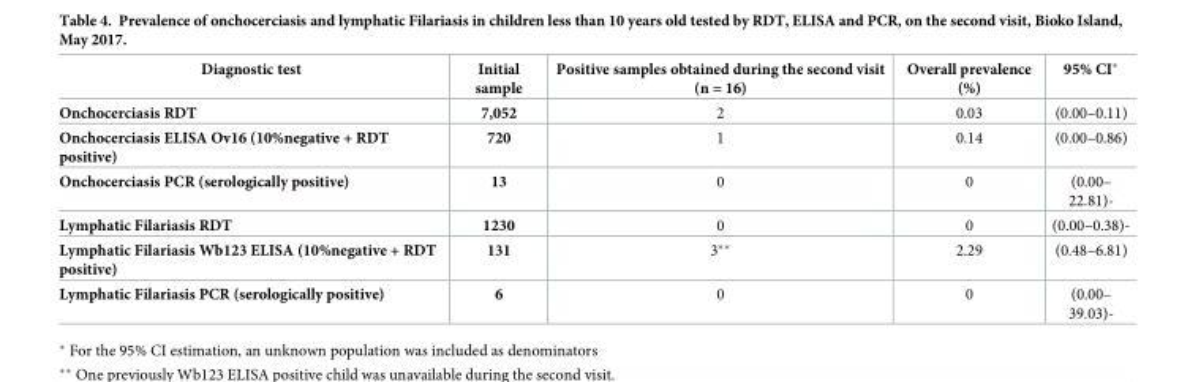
<table><thead><tr><td>Diagnostic test</td><td>Initial sample</td><td>Positive samples obtained during the second visit (n = 16)</td><td>Overall prevalence (%)</td><td>95% CI*</td></tr></thead><tbody><tr><td>Onchocerciasis RDT</td><td>7,052</td><td>2</td><td>0.03</td><td>(0.00–0.11)</td></tr><tr><td>Onchocerciasis ELISA Ov16 (10%negative + RDT positive)</td><td>720</td><td>1</td><td>0.14</td><td>(0.00–0.86)</td></tr><tr><td>Onchocerciasis PCR (serologically positive)</td><td>13</td><td>0</td><td>0</td><td>(0.00– 22.81)-</td></tr><tr><td>Lymphatic Filariasis RDT</td><td>1230</td><td>0</td><td>0</td><td>(0.00–0.38)-</td></tr><tr><td>Lymphatic Filariasis Wb123 ELISA (10%negative + RDT positive)</td><td>131</td><td>3**</td><td>2.29</td><td>(0.48–6.81)</td></tr><tr><td>Lymphatic Filariasis PCR (serologically positive)</td><td>6</td><td>0</td><td>0</td><td>(0.00– 39.03)-</td></tr></tbody></table>